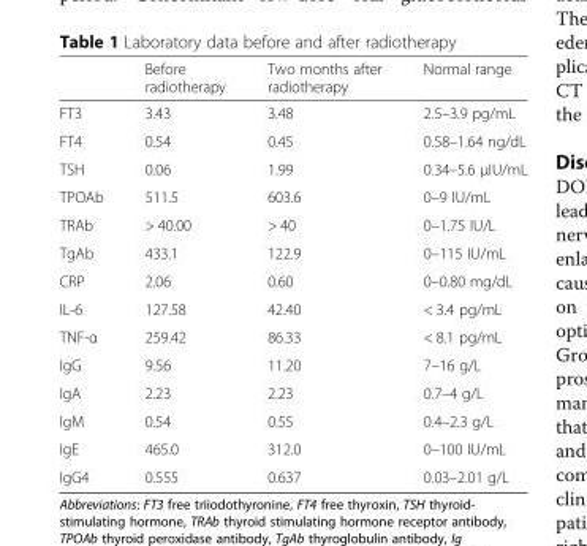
<table><thead><tr><td></td><td>Before radiotherapy</td><td>Two months after radiotherapy</td><td>Normal range</td></tr></thead><tbody><tr><td>FT3</td><td>3.43</td><td>3.48</td><td>2.5–3.9 pg/mL</td></tr><tr><td>FT4</td><td>0.54</td><td>0.45</td><td>0.58–1.64 ng/dL</td></tr><tr><td>TSH</td><td>0.06</td><td>1.99</td><td>0.34–5.6 μIU/mL</td></tr><tr><td>TPOAb</td><td>511.5</td><td>603.6</td><td>0–9 IU/mL</td></tr><tr><td>TRAb</td><td>&gt; 40.00</td><td>&gt; 40</td><td>0–1.75 IU/L</td></tr><tr><td>TgAb</td><td>433.1</td><td>122.9</td><td>0–115 IU/mL</td></tr><tr><td>CRP</td><td>2.06</td><td>0.60</td><td>0–0.80 mg/dL</td></tr><tr><td>IL-6</td><td>127.58</td><td>42.40</td><td>&lt; 3.4 pg/mL</td></tr><tr><td>TNF-α</td><td>259.42</td><td>86.33</td><td>&lt; 8.1 pg/mL</td></tr><tr><td>IgG</td><td>9.56</td><td>11.20</td><td>7–16 g/L</td></tr><tr><td>IgA</td><td>2.23</td><td>2.23</td><td>0.7–4 g/L</td></tr><tr><td>IgM</td><td>0.54</td><td>0.55</td><td>0.4–2.3 g/L</td></tr><tr><td>IgE</td><td>465.0</td><td>312.0</td><td>0–100 IU/mL</td></tr><tr><td>IgG4</td><td>0.555</td><td>0.637</td><td>0.03–2.01 g/L</td></tr></tbody></table>